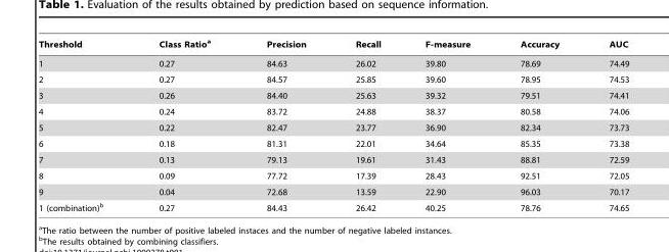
<table><thead><tr><td>Threshold</td><td>Class Ratio<sup>a</sup></td><td>Precision</td><td>Recall</td><td>F-measure</td><td>Accuracy</td><td>AUC</td></tr></thead><tbody><tr><td>1</td><td>0.27</td><td>84.63</td><td>26.02</td><td>39.80</td><td>78.69</td><td>74.49</td></tr><tr><td>2</td><td>0.27</td><td>84.57</td><td>25.85</td><td>39.60</td><td>78.95</td><td>74.53</td></tr><tr><td>3</td><td>0.26</td><td>84.40</td><td>25.63</td><td>39.32</td><td>79.51</td><td>74.41</td></tr><tr><td>4</td><td>0.24</td><td>83.72</td><td>24.88</td><td>38.37</td><td>80.58</td><td>74.06</td></tr><tr><td>5</td><td>0.22</td><td>82.47</td><td>23.77</td><td>36.90</td><td>82.34</td><td>73.73</td></tr><tr><td>6</td><td>0.18</td><td>81.31</td><td>22.01</td><td>34.64</td><td>85.35</td><td>73.38</td></tr><tr><td>7</td><td>0.13</td><td>79.13</td><td>19.61</td><td>31.43</td><td>88.81</td><td>72.59</td></tr><tr><td>8</td><td>0.09</td><td>77.72</td><td>17.39</td><td>28.43</td><td>92.51</td><td>72.05</td></tr><tr><td>9</td><td>0.04</td><td>72.68</td><td>13.59</td><td>22.90</td><td>96.03</td><td>70.17</td></tr><tr><td>1 (combination)<sup>b</sup></td><td>0.27</td><td>84.43</td><td>26.42</td><td>40.25</td><td>78.76</td><td>74.65</td></tr></tbody></table>